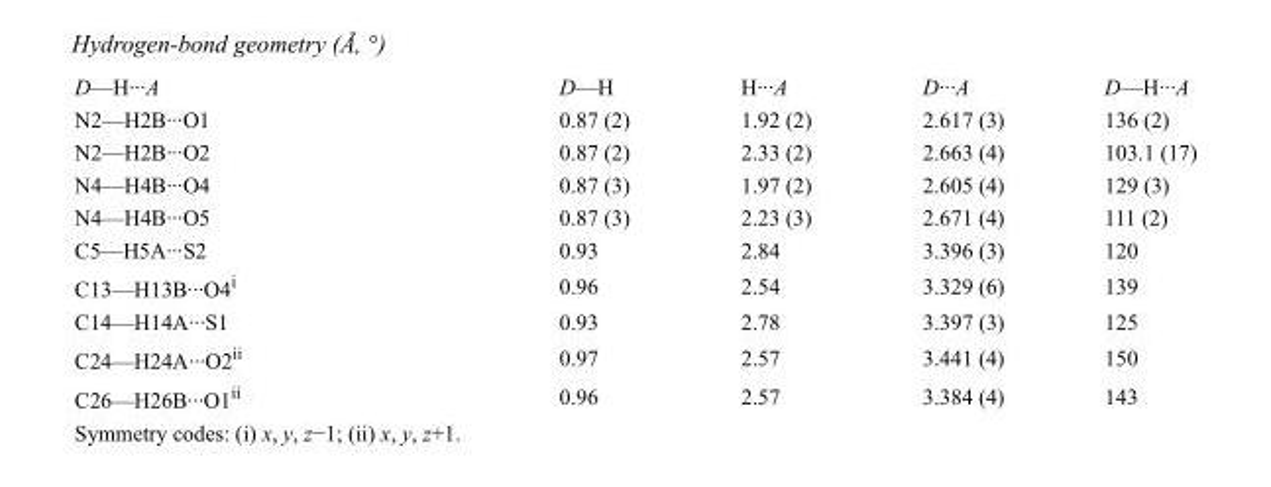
<table><tbody><tr><td>D—H···A</td><td>D—H</td><td>H···A</td><td>D···A</td><td>D—H···A</td></tr><tr><td>N2—H2B···O1</td><td>0.87 (2)</td><td>1.92 (2)</td><td>2.617 (3)</td><td>136 (2)</td></tr><tr><td>N2—H2B···O2</td><td>0.87 (2)</td><td>2.33 (2)</td><td>2.663 (4)</td><td>103.1 (17)</td></tr><tr><td>N4—H4B···O4</td><td>0.87 (3)</td><td>1.97 (2)</td><td>2.605 (4)</td><td>129 (3)</td></tr><tr><td>N4—H4B···O5</td><td>0.87 (3)</td><td>2.23 (3)</td><td>2.671 (4)</td><td>111 (2)</td></tr><tr><td>C5—H5A···S2</td><td>0.93</td><td>2.84</td><td>3.396 (3)</td><td>120</td></tr><tr><td>C13—H13B···O4<sup>i</sup></td><td>0.96</td><td>2.54</td><td>3.329 (6)</td><td>139</td></tr><tr><td>C14—H14A···S1</td><td>0.93</td><td>2.78</td><td>3.397 (3)</td><td>125</td></tr><tr><td>C24—H24A···O2<sup>ii</sup></td><td>0.97</td><td>2.57</td><td>3.441 (4)</td><td>150</td></tr><tr><td>C26—H26B···O1<sup>ii</sup></td><td>0.96</td><td>2.57</td><td>3.384 (4)</td><td>143</td></tr></tbody></table>